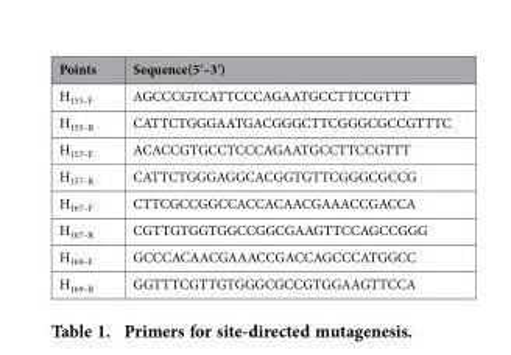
<table><thead><tr><td>Points</td><td>Sequence(5′–3′)</td></tr></thead><tbody><tr><td>H<sub>155–F</sub></td><td>AGCCCGTCATTCCCAGAATGCCTTCCGTTT</td></tr><tr><td>H<sub>155–R</sub></td><td>CATTCTGGGAATGACGGGCTTCGGGCGCCGTTTC</td></tr><tr><td>H<sub>157–F</sub></td><td>ACACCGTGCCTCCCAGAATGCCTTCCGTTT</td></tr><tr><td>H<sub>157–R</sub></td><td>CATTCTGGGAGGCACGGTGTTCGGGCGCCG</td></tr><tr><td>H<sub>167–F</sub></td><td>CTTCGCCGGCCACCACAACGAAACCGACCA</td></tr><tr><td>H<sub>167–R</sub></td><td>CGTTGTGGTGGCCGGCGAAGTTCCAGCCGGG</td></tr><tr><td>H<sub>169–F</sub></td><td>GCCCACAACGAAACCGACCAGCCCATGGCC</td></tr><tr><td>H<sub>169–R</sub></td><td>GGTTTCGTTGTGGGCGCCGTGGAAGTTCCA</td></tr></tbody></table>